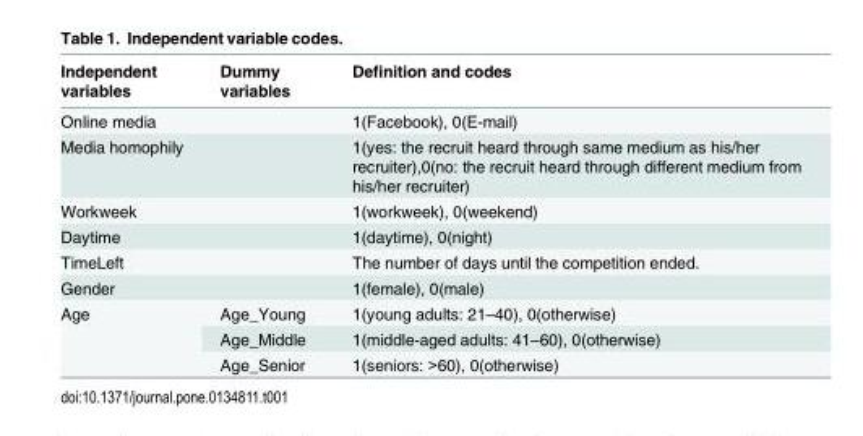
<table><thead><tr><td>Independent variables</td><td>Dummy variables</td><td>Definition and codes</td></tr></thead><tbody><tr><td>Online media</td><td></td><td>1(Facebook), 0(E-mail)</td></tr><tr><td>Media homophily</td><td></td><td>1(yes: the recruit heard through same medium as his/her recruiter),0(no: the recruit heard through different medium from his/her recruiter)</td></tr><tr><td>Workweek</td><td></td><td>1(workweek), 0(weekend)</td></tr><tr><td>Daytime</td><td></td><td>1(daytime), 0(night)</td></tr><tr><td>TimeLeft</td><td></td><td>The number of days until the competition ended.</td></tr><tr><td>Gender</td><td></td><td>1(female), 0(male)</td></tr><tr><td rowspan="3">Age</td><td>Age_Young</td><td>1(young adults: 21–40), 0(otherwise)</td></tr><tr><td>Age_Middle</td><td>1(middle-aged adults: 41–60), 0(otherwise)</td></tr><tr><td>Age_Senior</td><td>1(seniors: &gt;60), 0(otherwise)</td></tr></tbody></table>